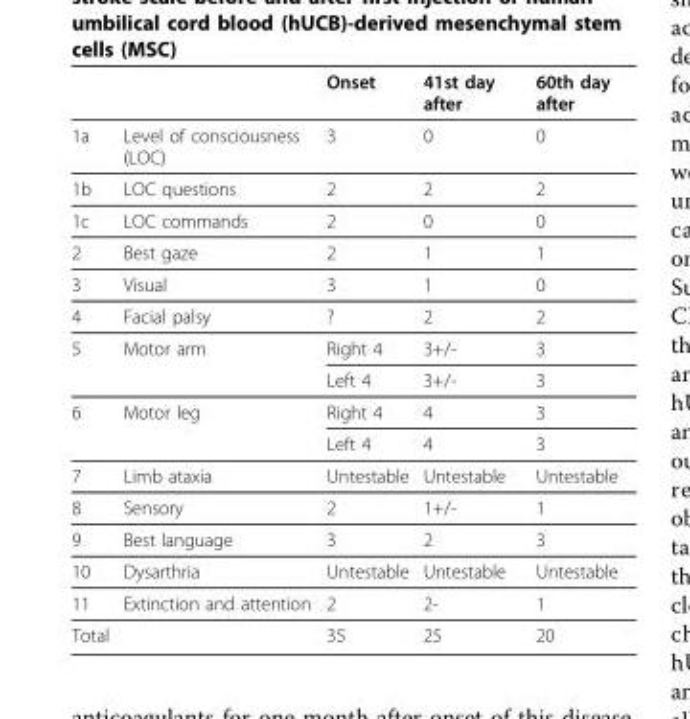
<table><thead><tr><td></td><td></td><td>Onset</td><td>41st day after</td><td>60th day after</td></tr></thead><tbody><tr><td>1a</td><td>Level of consciousness (LOC)</td><td>3</td><td>0</td><td>0</td></tr><tr><td>1b</td><td>LOC questions</td><td>2</td><td>2</td><td>2</td></tr><tr><td>1c</td><td>LOC commands</td><td>2</td><td>0</td><td>0</td></tr><tr><td>2</td><td>Best gaze</td><td>2</td><td>1</td><td>1</td></tr><tr><td>3</td><td>Visual</td><td>3</td><td>1</td><td>0</td></tr><tr><td>4</td><td>Facial palsy</td><td>?</td><td>2</td><td>2</td></tr><tr><td rowspan="2">5</td><td>Motor arm</td><td>Right 4</td><td>3+/-</td><td>3</td></tr><tr><td></td><td>Left 4</td><td>3+/-</td><td>3</td></tr><tr><td rowspan="2">6</td><td>Motor leg</td><td>Right 4</td><td>4</td><td>3</td></tr><tr><td></td><td>Left 4</td><td>4</td><td>3</td></tr><tr><td>7</td><td>Limb ataxia</td><td>Untestable</td><td>Untestable</td><td>Untestable</td></tr><tr><td>8</td><td>Sensory</td><td>2</td><td>1+/-</td><td>1</td></tr><tr><td>9</td><td>Best language</td><td>3</td><td>2</td><td>3</td></tr><tr><td>10</td><td>Dysarthria</td><td>Untestable</td><td>Untestable</td><td>Untestable</td></tr><tr><td>11</td><td>Extinction and attention</td><td>2</td><td>2-</td><td>1</td></tr><tr><td>Total</td><td></td><td>35</td><td>25</td><td>20</td></tr></tbody></table>